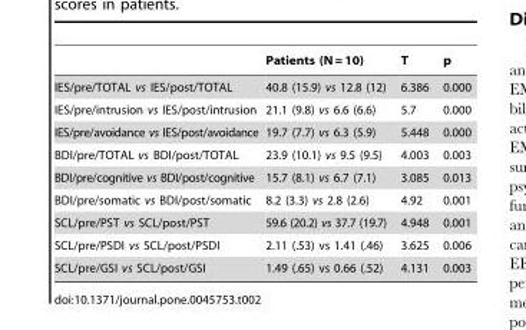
<table><thead><tr><td></td><td>Patients (N = 10)</td><td>T</td><td>p</td></tr></thead><tbody><tr><td>IES/pre/TOTAL vs IES/post/TOTAL</td><td>40.8 (15.9) vs 12.8 (12)</td><td>6.386</td><td>0.000</td></tr><tr><td>IES/pre/intrusion vs IES/post/intrusion</td><td>21.1 (9.8) vs 6.6 (6.6)</td><td>5.7</td><td>0.000</td></tr><tr><td>IES/pre/avoidance vs IES/post/avoidance</td><td>19.7 (7.7) vs 6.3 (5.9)</td><td>5.448</td><td>0.000</td></tr><tr><td>BDI/pre/TOTAL vs BDI/post/TOTAL</td><td>23.9 (10.1) vs 9.5 (9.5)</td><td>4.003</td><td>0.003</td></tr><tr><td>BDI/pre/cognitive vs BDI/post/cognitive</td><td>15.7 (8.1) vs 6.7 (7.1)</td><td>3.085</td><td>0.013</td></tr><tr><td>BDI/pre/somatic vs BDI/post/somatic</td><td>8.2 (3.3) vs 2.8 (2.6)</td><td>4.92</td><td>0.001</td></tr><tr><td>SCL/pre/PST vs SCL/post/PST</td><td>59.6 (20.2) vs 37.7 (19.7)</td><td>4.948</td><td>0.001</td></tr><tr><td>SCL/pre/PSDI vs SCL/post/PSDI</td><td>2.11 (.53) vs 1.41 (.46)</td><td>3.625</td><td>0.006</td></tr><tr><td>SCL/pre/GSI vs SCL/post/GSI</td><td>1.49 (.65) vs 0.66 (.52)</td><td>4.131</td><td>0.003</td></tr></tbody></table>